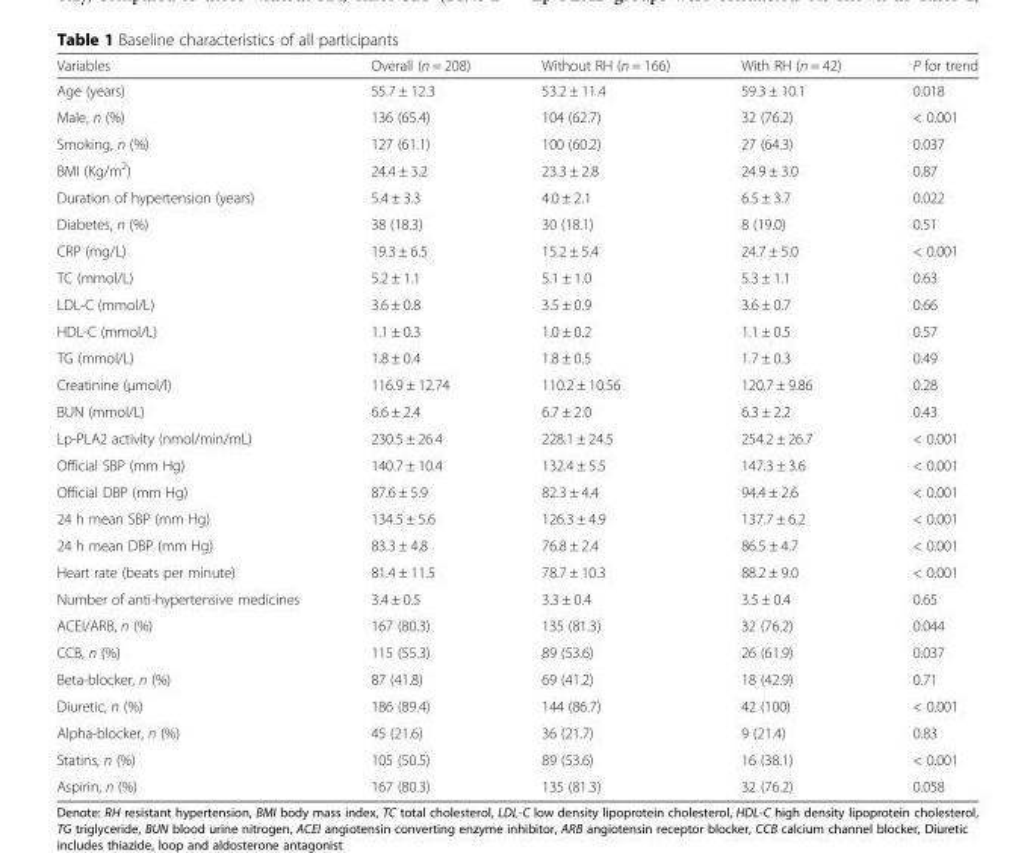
<table><thead><tr><td>Variables</td><td>Overall (n = 208)</td><td>Without RH (n = 166)</td><td>With RH (n = 42)</td><td>P for trend</td></tr></thead><tbody><tr><td>Age (years)</td><td>55.7 ± 12.3</td><td>53.2 ± 11.4</td><td>59.3 ± 10.1</td><td>0.018</td></tr><tr><td>Male, n (%)</td><td>136 (65.4)</td><td>104 (62.7)</td><td>32 (76.2)</td><td>&lt; 0.001</td></tr><tr><td>Smoking, n (%)</td><td>127 (61.1)</td><td>100 (60.2)</td><td>27 (64.3)</td><td>0.037</td></tr><tr><td>BMI (Kg/m<sup>2</sup>)</td><td>24.4 ± 3.2</td><td>23.3 ± 2.8</td><td>24.9 ± 3.0</td><td>0.87</td></tr><tr><td>Duration of hypertension (years)</td><td>5.4 ± 3.3</td><td>4.0 ± 2.1</td><td>6.5 ± 3.7</td><td>0.022</td></tr><tr><td>Diabetes, n (%)</td><td>38 (18.3)</td><td>30 (18.1)</td><td>8 (19.0)</td><td>0.51</td></tr><tr><td>CRP (mg/L)</td><td>19.3 ± 6.5</td><td>15.2 ± 5.4</td><td>24.7 ± 5.0</td><td>&lt; 0.001</td></tr><tr><td>TC (mmol/L)</td><td>5.2 ± 1.1</td><td>5.1 ± 1.0</td><td>5.3 ± 1.1</td><td>0.63</td></tr><tr><td>LDL-C (mmol/L)</td><td>3.6 ± 0.8</td><td>3.5 ± 0.9</td><td>3.6 ± 0.7</td><td>0.66</td></tr><tr><td>HDL-C (mmol/L)</td><td>1.1 ± 0.3</td><td>1.0 ± 0.2</td><td>1.1 ± 0.5</td><td>0.57</td></tr><tr><td>TG (mmol/L)</td><td>1.8 ± 0.4</td><td>1.8 ± 0.5</td><td>1.7 ± 0.3</td><td>0.49</td></tr><tr><td>Creatinine (μmol/l)</td><td>116.9 ± 12.74</td><td>110.2 ± 10.56</td><td>120.7 ± 9.86</td><td>0.28</td></tr><tr><td>BUN (mmol/L)</td><td>6.6 ± 2.4</td><td>6.7 ± 2.0</td><td>6.3 ± 2.2</td><td>0.43</td></tr><tr><td>Lp-PLA2 activity (nmol/min/mL)</td><td>230.5 ± 26.4</td><td>228.1 ± 24.5</td><td>254.2 ± 26.7</td><td>&lt; 0.001</td></tr><tr><td>Official SBP (mm Hg)</td><td>140.7 ± 10.4</td><td>132.4 ± 5.5</td><td>147.3 ± 3.6</td><td>&lt; 0.001</td></tr><tr><td>Official DBP (mm Hg)</td><td>87.6 ± 5.9</td><td>82.3 ± 4.4</td><td>94.4 ± 2.6</td><td>&lt; 0.001</td></tr><tr><td>24 h mean SBP (mm Hg)</td><td>134.5 ± 5.6</td><td>126.3 ± 4.9</td><td>137.7 ± 6.2</td><td>&lt; 0.001</td></tr><tr><td>24 h mean DBP (mm Hg)</td><td>83.3 ± 4.8</td><td>76.8 ± 2.4</td><td>86.5 ± 4.7</td><td>&lt; 0.001</td></tr><tr><td>Heart rate (beats per minute)</td><td>81.4 ± 11.5</td><td>78.7 ± 10.3</td><td>88.2 ± 9.0</td><td>&lt; 0.001</td></tr><tr><td>Number of anti-hypertensive medicines</td><td>3.4 ± 0.5</td><td>3.3 ± 0.4</td><td>3.5 ± 0.4</td><td>0.65</td></tr><tr><td>ACEI/ARB, n (%)</td><td>167 (80.3)</td><td>135 (81.3)</td><td>32 (76.2)</td><td>0.044</td></tr><tr><td>CCB, n (%)</td><td>115 (55.3)</td><td>89 (53.6)</td><td>26 (61.9)</td><td>0.037</td></tr><tr><td>Beta-blocker, n (%)</td><td>87 (41.8)</td><td>69 (41.2)</td><td>18 (42.9)</td><td>0.71</td></tr><tr><td>Diuretic, n (%)</td><td>186 (89.4)</td><td>144 (86.7)</td><td>42 (100)</td><td>&lt; 0.001</td></tr><tr><td>Alpha-blocker, n (%)</td><td>45 (21.6)</td><td>36 (21.7)</td><td>9 (21.4)</td><td>0.83</td></tr><tr><td>Statins, n (%)</td><td>105 (50.5)</td><td>89 (53.6)</td><td>16 (38.1)</td><td>&lt; 0.001</td></tr><tr><td>Aspirin, n (%)</td><td>167 (80.3)</td><td>135 (81.3)</td><td>32 (76.2)</td><td>0.058</td></tr></tbody></table>